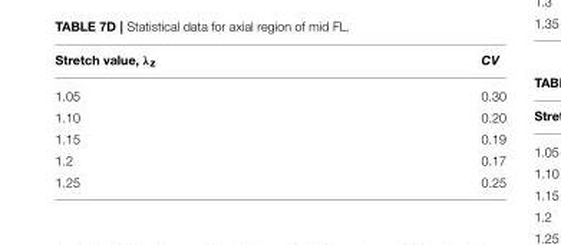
<table><thead><tr><td>Stretch value, λ<sub>z</sub></td><td>CV</td></tr></thead><tbody><tr><td>1.05</td><td>0.30</td></tr><tr><td>1.10</td><td>0.20</td></tr><tr><td>1.15</td><td>0.19</td></tr><tr><td>1.2</td><td>0.17</td></tr><tr><td>1.25</td><td>0.25</td></tr></tbody></table>